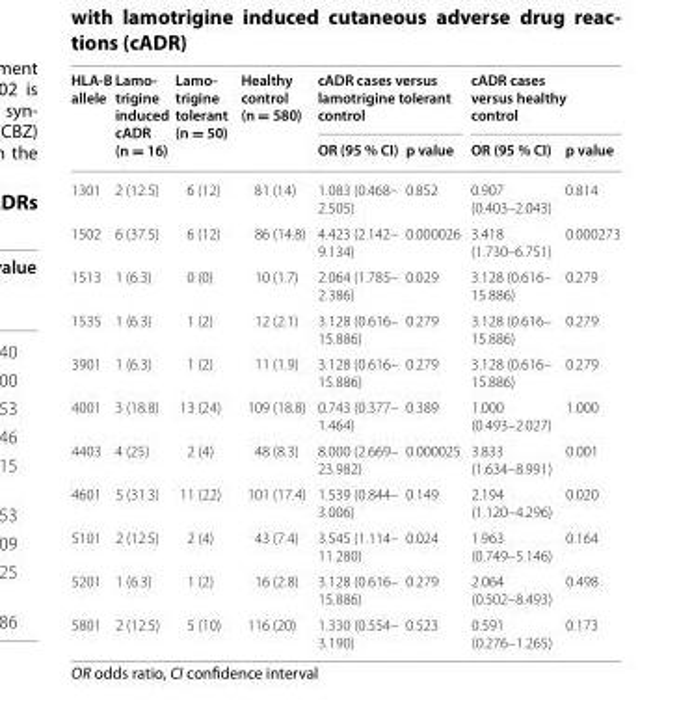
<table><thead><tr><td rowspan="2">HLA-B allele</td><td rowspan="2">Lamo- trigine induced cADR (n = 16)</td><td rowspan="2">Lamo- trigine tolerant (n = 50)</td><td rowspan="2">Healthy control (n = 580)</td><td colspan="2">cADR cases versus lamotrigine tolerant control</td><td colspan="2">cADR cases versus healthy control</td></tr><tr><td>OR (95 % CI)</td><td>p value</td><td>OR (95 % CI)</td><td>p value</td></tr></thead><tbody><tr><td>1301</td><td>2 (12.5)</td><td>6 (12)</td><td>81 (14)</td><td>1.083 (0.468– 2.505)</td><td>0.852</td><td>0.907 (0.403–2.043)</td><td>0.814</td></tr><tr><td>1502</td><td>6 (37.5)</td><td>6 (12)</td><td>86 (14.8)</td><td>4.423 (2.142– 9.134)</td><td>0.000026</td><td>3.418 (1.730–6.751)</td><td>0.000273</td></tr><tr><td>1513</td><td>1 (6.3)</td><td>0 (0)</td><td>10 (1.7)</td><td>2.064 (1.785– 2.386)</td><td>0.029</td><td>3.128 (0.616– 15.886)</td><td>0.279</td></tr><tr><td>1535</td><td>1 (6.3)</td><td>1 (2)</td><td>12 (2.1)</td><td>3.128 (0.616– 15.886)</td><td>0.279</td><td>3.128 (0.616– 15.886)</td><td>0.279</td></tr><tr><td>3901</td><td>1 (6.3)</td><td>1 (2)</td><td>11 (1.9)</td><td>3.128 (0.616– 15.886)</td><td>0.279</td><td>3.128 (0.616– 15.886)</td><td>0.279</td></tr><tr><td>4001</td><td>3 (18.8)</td><td>13 (24)</td><td>109 (18.8)</td><td>0.743 (0.377– 1.464)</td><td>0.389</td><td>1.000 (0.493–2.027)</td><td>1.000</td></tr><tr><td>4403</td><td>4 (25)</td><td>2 (4)</td><td>48 (8.3)</td><td>8.000 (2.669– 23.982)</td><td>0.000025</td><td>3.833 (1.634–8.991)</td><td>0.001</td></tr><tr><td>4601</td><td>5 (31.3)</td><td>11 (22)</td><td>101 (17.4)</td><td>1.539 (0.844– 3.006)</td><td>0.149</td><td>2.194 (1.120–4.296)</td><td>0.020</td></tr><tr><td>5101</td><td>2 (12.5)</td><td>2 (4)</td><td>43 (7.4)</td><td>3.545 (1.114– 11.280)</td><td>0.024</td><td>1.963 (0.749–5.146)</td><td>0.164</td></tr><tr><td>5201</td><td>1 (6.3)</td><td>1 (2)</td><td>16 (2.8)</td><td>3.128 (0.616– 15.886)</td><td>0.279</td><td>2.064 (0.502–8.493)</td><td>0.498</td></tr><tr><td>5801</td><td>2 (12.5)</td><td>5 (10)</td><td>116 (20)</td><td>1.330 (0.554– 3.190)</td><td>0.523</td><td>0.591 (0.276–1.265)</td><td>0.173</td></tr></tbody></table>